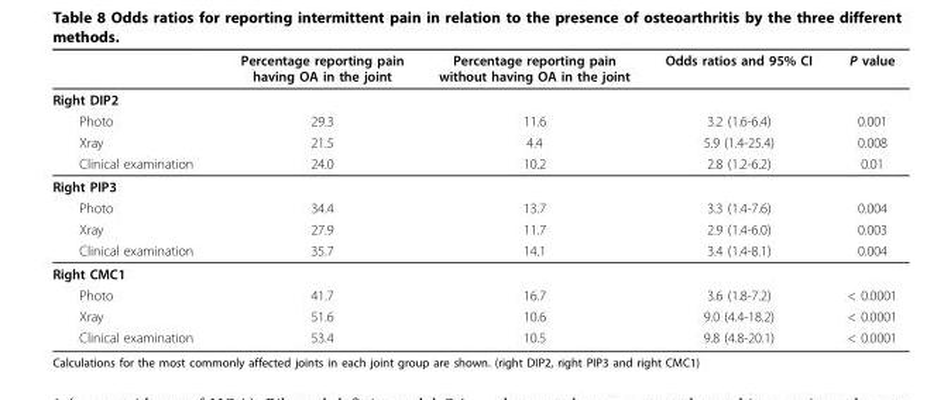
<table><thead><tr><td></td><td>Percentage reporting pain having OA in the joint</td><td>Percentage reporting pain without having OA in the joint</td><td>Odds ratios and 95% CI</td><td>P value</td></tr></thead><tbody><tr><td colspan="5">Right DIP2</td></tr><tr><td>Photo</td><td>29.3</td><td>11.6</td><td>3.2 (1.6-6.4)</td><td>0.001</td></tr><tr><td>Xray</td><td>21.5</td><td>4.4</td><td>5.9 (1.4-25.4)</td><td>0.008</td></tr><tr><td>Clinical examination</td><td>24.0</td><td>10.2</td><td>2.8 (1.2-6.2)</td><td>0.01</td></tr><tr><td colspan="5">Right PIP3</td></tr><tr><td>Photo</td><td>34.4</td><td>13.7</td><td>3.3 (1.4-7.6)</td><td>0.004</td></tr><tr><td>Xray</td><td>27.9</td><td>11.7</td><td>2.9 (1.4-6.0)</td><td>0.003</td></tr><tr><td>Clinical examination</td><td>35.7</td><td>14.1</td><td>3.4 (1.4-8.1)</td><td>0.004</td></tr><tr><td colspan="5">Right CMC1</td></tr><tr><td>Photo</td><td>41.7</td><td>16.7</td><td>3.6 (1.8-7.2)</td><td>&lt; 0.0001</td></tr><tr><td>Xray</td><td>51.6</td><td>10.6</td><td>9.0 (4.4-18.2)</td><td>&lt; 0.0001</td></tr><tr><td>Clinical examination</td><td>53.4</td><td>10.5</td><td>9.8 (4.8-20.1)</td><td>&lt; 0.0001</td></tr></tbody></table>